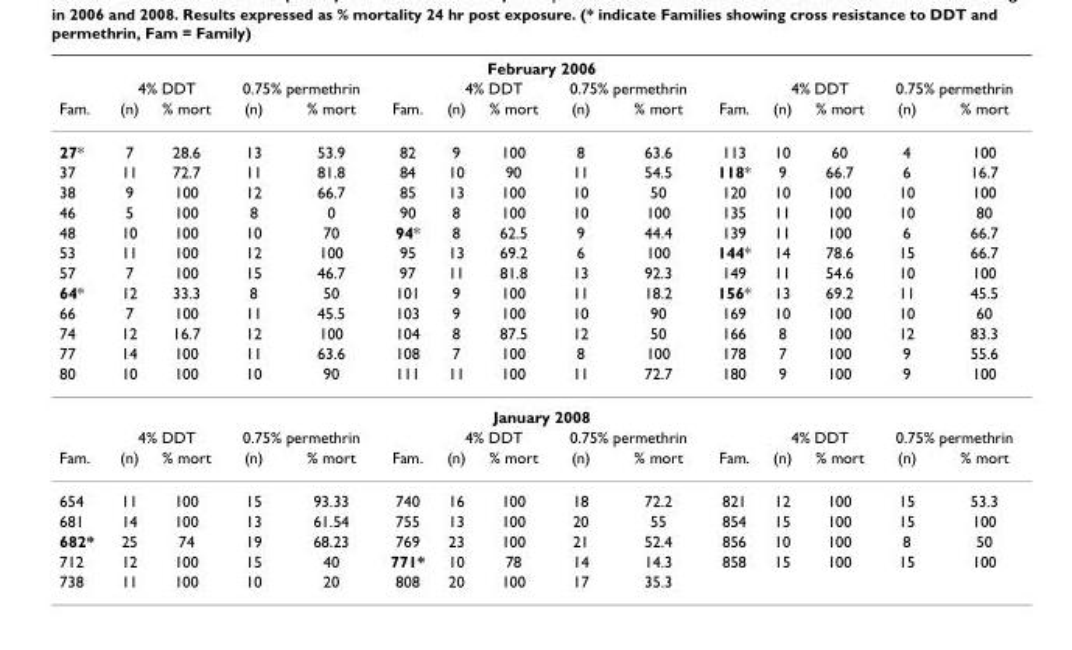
<table><thead><tr><td colspan="15">February 2006</td></tr><tr><td rowspan="2">Fam.</td><td colspan="2">4% DDT</td><td colspan="2">0.75% permethrin</td><td rowspan="2">Fam.</td><td colspan="2">4% DDT</td><td colspan="2">0.75% permethrin</td><td rowspan="2">Fam.</td><td colspan="2">4% DDT</td><td colspan="2">0.75% permethrin</td></tr><tr><td>(n)</td><td>% mort</td><td>(n)</td><td>% mort</td><td>(n)</td><td>% mort</td><td>(n)</td><td>% mort</td><td>(n)</td><td>% mort</td><td>(n)</td><td>% mort</td></tr></thead><tbody><tr><td>27*</td><td>7</td><td>28.6</td><td>13</td><td>53.9</td><td>82</td><td>9</td><td>100</td><td>8</td><td>63.6</td><td>113</td><td>10</td><td>60</td><td>4</td><td>100</td></tr><tr><td>37</td><td>11</td><td>72.7</td><td>11</td><td>81.8</td><td>84</td><td>10</td><td>90</td><td>11</td><td>54.5</td><td>118*</td><td>9</td><td>66.7</td><td>6</td><td>16.7</td></tr><tr><td>38</td><td>9</td><td>100</td><td>12</td><td>66.7</td><td>85</td><td>13</td><td>100</td><td>10</td><td>50</td><td>120</td><td>10</td><td>100</td><td>10</td><td>100</td></tr><tr><td>46</td><td>5</td><td>100</td><td>8</td><td>0</td><td>90</td><td>8</td><td>100</td><td>10</td><td>100</td><td>135</td><td>11</td><td>100</td><td>10</td><td>80</td></tr><tr><td>48</td><td>10</td><td>100</td><td>10</td><td>70</td><td>94*</td><td>8</td><td>62.5</td><td>9</td><td>44.4</td><td>139</td><td>11</td><td>100</td><td>6</td><td>66.7</td></tr><tr><td>53</td><td>11</td><td>100</td><td>12</td><td>100</td><td>95</td><td>13</td><td>69.2</td><td>6</td><td>100</td><td>144*</td><td>14</td><td>78.6</td><td>15</td><td>66.7</td></tr><tr><td>57</td><td>7</td><td>100</td><td>15</td><td>46.7</td><td>97</td><td>11</td><td>81.8</td><td>13</td><td>92.3</td><td>149</td><td>11</td><td>54.6</td><td>10</td><td>100</td></tr><tr><td>64*</td><td>12</td><td>33.3</td><td>8</td><td>50</td><td>101</td><td>9</td><td>100</td><td>11</td><td>18.2</td><td>156*</td><td>13</td><td>69.2</td><td>11</td><td>45.5</td></tr><tr><td>66</td><td>7</td><td>100</td><td>11</td><td>45.5</td><td>103</td><td>9</td><td>100</td><td>10</td><td>90</td><td>169</td><td>10</td><td>100</td><td>10</td><td>60</td></tr><tr><td>74</td><td>12</td><td>16.7</td><td>12</td><td>100</td><td>104</td><td>8</td><td>87.5</td><td>12</td><td>50</td><td>166</td><td>8</td><td>100</td><td>12</td><td>83.3</td></tr><tr><td>77</td><td>14</td><td>100</td><td>11</td><td>63.6</td><td>108</td><td>7</td><td>100</td><td>8</td><td>100</td><td>178</td><td>7</td><td>100</td><td>9</td><td>55.6</td></tr><tr><td>80</td><td>10</td><td>100</td><td>10</td><td>90</td><td>111</td><td>11</td><td>100</td><td>11</td><td>72.7</td><td>180</td><td>9</td><td>100</td><td>9</td><td>100</td></tr><tr><td colspan="15">January 2008</td></tr><tr><td></td><td colspan="2">4% DDT</td><td colspan="2">0.75% permethrin</td><td></td><td colspan="2">4% DDT</td><td colspan="2">0.75% permethrin</td><td></td><td colspan="2">4% DDT</td><td colspan="2">0.75% permethrin</td></tr><tr><td>Fam.</td><td>(n)</td><td>% mort</td><td>(n)</td><td>% mort</td><td>Fam.</td><td>(n)</td><td>% mort</td><td>(n)</td><td>% mort</td><td>Fam.</td><td>(n)</td><td>% mort</td><td>(n)</td><td>% mort</td></tr><tr><td>654</td><td>11</td><td>100</td><td>15</td><td>93.33</td><td>740</td><td>16</td><td>100</td><td>18</td><td>72.2</td><td>821</td><td>12</td><td>100</td><td>15</td><td>53.3</td></tr><tr><td>681</td><td>14</td><td>100</td><td>13</td><td>61.54</td><td>755</td><td>13</td><td>100</td><td>20</td><td>55</td><td>854</td><td>15</td><td>100</td><td>15</td><td>100</td></tr><tr><td>682*</td><td>25</td><td>74</td><td>19</td><td>68.23</td><td>769</td><td>23</td><td>100</td><td>21</td><td>52.4</td><td>856</td><td>10</td><td>100</td><td>8</td><td>50</td></tr><tr><td>712</td><td>12</td><td>100</td><td>15</td><td>40</td><td>771*</td><td>10</td><td>78</td><td>14</td><td>14.3</td><td>858</td><td>15</td><td>100</td><td>15</td><td>100</td></tr><tr><td>738</td><td>11</td><td>100</td><td>10</td><td>20</td><td>808</td><td>20</td><td>100</td><td>17</td><td>35.3</td><td></td><td></td><td></td><td></td><td></td></tr></tbody></table>